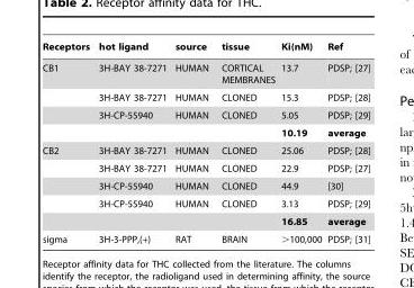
<table><thead><tr><td>Receptors</td><td>hot ligand</td><td>source</td><td>tissue</td><td>Ki(nM)</td><td>Ref</td></tr></thead><tbody><tr><td rowspan="4">CB1</td><td>3H-BAY 38-7271</td><td>HUMAN</td><td>CORTICAL MEMBRANES</td><td>13.7</td><td>PDSP; [27]</td></tr><tr><td>3H-BAY 38-7271</td><td>HUMAN</td><td>CLONED</td><td>15.3</td><td>PDSP; [28]</td></tr><tr><td>3H-CP-55940</td><td>HUMAN</td><td>CLONED</td><td>5.05</td><td>PDSP; [29]</td></tr><tr><td></td><td></td><td></td><td>10.19</td><td>average</td></tr><tr><td rowspan="5">CB2</td><td>3H-BAY 38-7271</td><td>HUMAN</td><td>CLONED</td><td>25.06</td><td>PDSP; [28]</td></tr><tr><td>3H-BAY 38-7271</td><td>HUMAN</td><td>CLONED</td><td>22.9</td><td>PDSP; [27]</td></tr><tr><td>3H-CP-55940</td><td>HUMAN</td><td>CLONED</td><td>44.9</td><td>[30]</td></tr><tr><td>3H-CP-55940</td><td>HUMAN</td><td>CLONED</td><td>3.13</td><td>PDSP; [29]</td></tr><tr><td></td><td></td><td></td><td>16.85</td><td>average</td></tr><tr><td>sigma</td><td>3H-3-PPP,(+)</td><td>RAT</td><td>BRAIN</td><td>&gt;100,000</td><td>PDSP; [31]</td></tr></tbody></table>